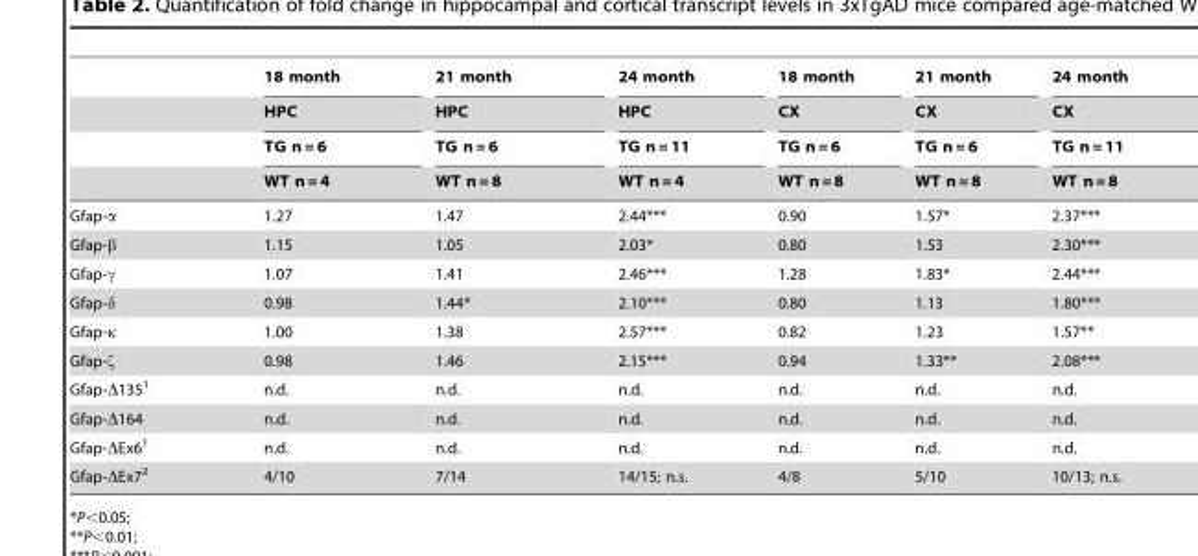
<table><thead><tr><td rowspan="4"></td><td rowspan="4">18 month HPC TG n = 6 WT n = 4</td><td rowspan="4">21 month HPC TG n = 6 WT n = 8</td><td rowspan="4">24 month HPC TG n = 11 WT n = 4</td><td rowspan="4">18 month CX TG n = 6 WT n = 8</td><td rowspan="4">21 month CX TG n = 6 WT n = 8</td><td rowspan="4">24 month CX TG n = 11 WT n = 8</td></tr><tr></tr><tr></tr><tr></tr></thead><tbody><tr><td>Gfap-α</td><td>1.27</td><td>1.47</td><td>2.44***</td><td>0.90</td><td>1.57*</td><td>2.37***</td></tr><tr><td>Gfap-β</td><td>1.15</td><td>1.05</td><td>2.03*</td><td>0.80</td><td>1.53</td><td>2.30***</td></tr><tr><td>Gfap-γ</td><td>1.07</td><td>1.41</td><td>2.46***</td><td>1.28</td><td>1.83*</td><td>2.44***</td></tr><tr><td>Gfap-δ</td><td>0.98</td><td>1.44*</td><td>2.10***</td><td>0.80</td><td>1.13</td><td>1.80***</td></tr><tr><td>Gfap-κ</td><td>1.00</td><td>1.38</td><td>2.57***</td><td>0.82</td><td>1.23</td><td>1.57**</td></tr><tr><td>Gfap-ζ</td><td>0.98</td><td>1.46</td><td>2.15***</td><td>0.94</td><td>1.33**</td><td>2.08***</td></tr><tr><td>Gfap-Δ135<sup>1</sup></td><td>n.d.</td><td>n.d.</td><td>n.d.</td><td>n.d.</td><td>n.d.</td><td>n.d.</td></tr><tr><td>Gfap-Δ164</td><td>n.d.</td><td>n.d.</td><td>n.d.</td><td>n.d.</td><td>n.d.</td><td>n.d.</td></tr><tr><td>Gfap-ΔEx6<sup>1</sup></td><td>n.d.</td><td>n.d.</td><td>n.d.</td><td>n.d.</td><td>n.d.</td><td>n.d.</td></tr><tr><td>Gfap-ΔEx7<sup>2</sup></td><td>4/10</td><td>7/14</td><td>14/15; n.s.</td><td>4/8</td><td>5/10</td><td>10/13; n.s.</td></tr></tbody></table>